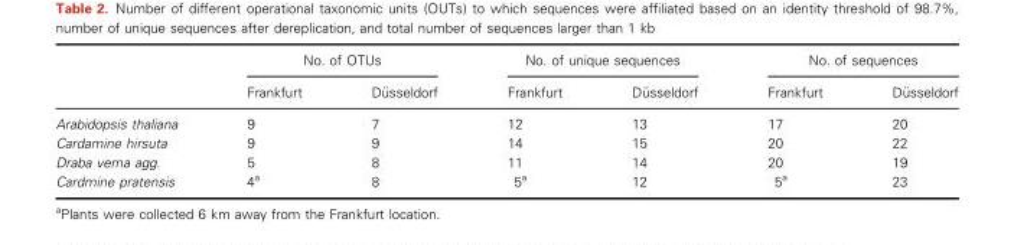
<table><thead><tr><td rowspan="2"></td><td colspan="2">No. of OTUs</td><td colspan="2">No. of unique sequences</td><td colspan="2">No. of sequences</td></tr><tr><td>Frankfurt</td><td>D€usseldorf</td><td>Frankfurt</td><td>D€usseldorf</td><td>Frankfurt</td><td>D€usseldorf</td></tr></thead><tbody><tr><td>Arabidopsis thaliana</td><td>9</td><td>7</td><td>12</td><td>13</td><td>17</td><td>20</td></tr><tr><td>Cardamine hirsuta</td><td>9</td><td>9</td><td>14</td><td>15</td><td>20</td><td>22</td></tr><tr><td>Draba verna agg.</td><td>5</td><td>8</td><td>11</td><td>14</td><td>20</td><td>19</td></tr><tr><td>Cardmine pratensis</td><td>4<sup>a</sup></td><td>8</td><td>5<sup>a</sup></td><td>12</td><td>5<sup>a</sup></td><td>23</td></tr></tbody></table>